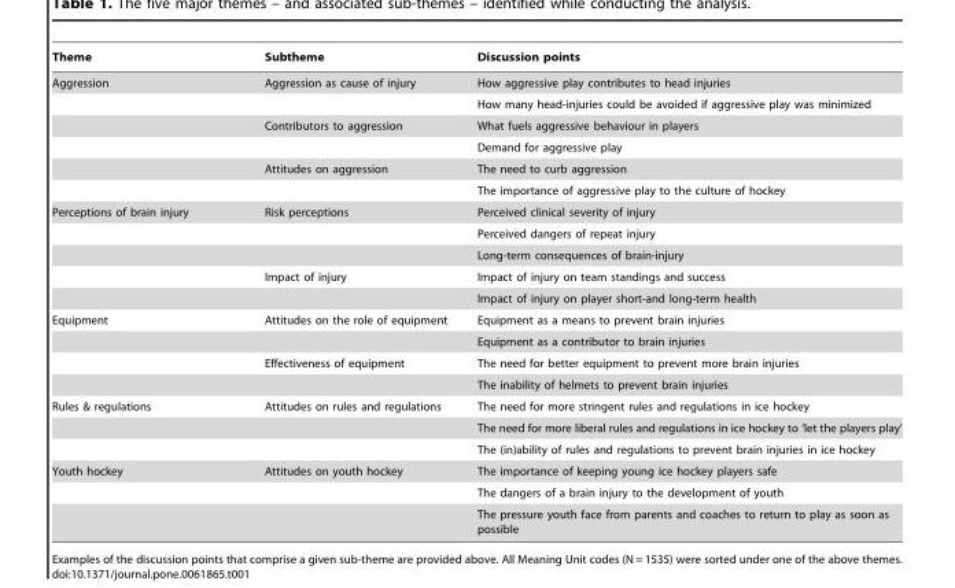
<table><thead><tr><td>Theme</td><td>Subtheme</td><td>Discussion points</td></tr></thead><tbody><tr><td rowspan="6">Aggression</td><td>Aggression as cause of injury</td><td>How aggressive play contributes to head injuries</td></tr><tr><td></td><td>How many head-injuries could be avoided if aggressive play was minimized</td></tr><tr><td>Contributors to aggression</td><td>What fuels aggressive behaviour in players</td></tr><tr><td></td><td>Demand for aggressive play</td></tr><tr><td>Attitudes on aggression</td><td>The need to curb aggression</td></tr><tr><td></td><td>The importance of aggressive play to the culture of hockey</td></tr><tr><td rowspan="5">Perceptions of brain injury</td><td>Risk perceptions</td><td>Perceived clinical severity of injury</td></tr><tr><td></td><td>Perceived dangers of repeat injury</td></tr><tr><td></td><td>Long-term consequences of brain-injury</td></tr><tr><td>Impact of injury</td><td>Impact of injury on team standings and success</td></tr><tr><td></td><td>Impact of injury on player short-and long-term health</td></tr><tr><td rowspan="4">Equipment</td><td>Attitudes on the role of equipment</td><td>Equipment as a means to prevent brain injuries</td></tr><tr><td></td><td>Equipment as a contributor to brain injuries</td></tr><tr><td>Effectiveness of equipment</td><td>The need for better equipment to prevent more brain injuries</td></tr><tr><td></td><td>The inability of helmets to prevent brain injuries</td></tr><tr><td rowspan="3">Rules &amp; regulations</td><td>Attitudes on rules and regulations</td><td>The need for more stringent rules and regulations in ice hockey</td></tr><tr><td></td><td>The need for more liberal rules and regulations in ice hockey to ‘let the players play’</td></tr><tr><td></td><td>The (in)ability of rules and regulations to prevent brain injuries in ice hockey</td></tr><tr><td rowspan="3">Youth hockey</td><td>Attitudes on youth hockey</td><td>The importance of keeping young ice hockey players safe</td></tr><tr><td></td><td>The dangers of a brain injury to the development of youth</td></tr><tr><td></td><td>The pressure youth face from parents and coaches to return to play as soon as possible</td></tr></tbody></table>